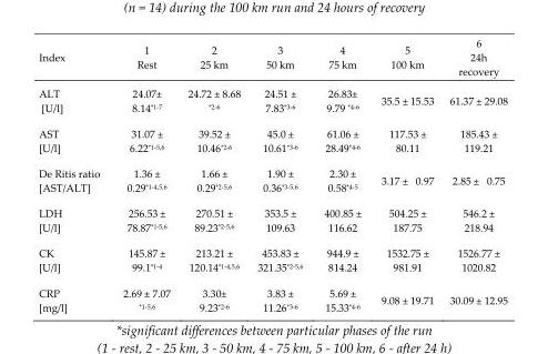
<table><thead><tr><td>Index</td><td>1 Rest</td><td>2 25 km</td><td>3 50 km</td><td>4 75 km</td><td>5 100 km</td><td>6 24h recovery</td></tr></thead><tbody><tr><td>ALT [U/l]</td><td>24.07± 8.14<sup>*1-7</sup></td><td>24.72 ± 8.68 <sup>*2-6</sup></td><td>24.51 ± 7.83<sup>*3-6</sup></td><td>26.83± 9.79 <sup>*4-6</sup></td><td>35.5 ± 15.53</td><td>61.37 ± 29.08</td></tr><tr><td>AST [U/l]</td><td>31.07 ± 6.22<sup>*1-5,6</sup></td><td>39.52 ± 10.46<sup>*2-6</sup></td><td>45.0 ± 10.61<sup>*3-6</sup></td><td>61.06 ± 28.49<sup>*4-6</sup></td><td>117.53 ± 80.11</td><td>185.43 ± 119.21</td></tr><tr><td>De Ritis ratio [AST/ALT]</td><td>1.36 ± 0.29<sup>*1-4,5,6</sup></td><td>1.66 ± 0.29<sup>*2-5,6</sup></td><td>1.90 ± 0.36<sup>*3-5,6</sup></td><td>2.30 ± 0.58<sup>*4-5</sup></td><td>3.17 ± 0.97</td><td>2.85 ± 0.75</td></tr><tr><td>LDH [U/l]</td><td>256.53 ± 78.87<sup>*1-5,6</sup></td><td>270.51 ± 89.23<sup>*2-5,6</sup></td><td>353.5 ± 109.63</td><td>400.85 ± 116.62</td><td>504.25 ± 187.75</td><td>546.2 ± 218.94</td></tr><tr><td>CK [U/l]</td><td>145.87 ± 99.1<sup>*1-4</sup></td><td>213.21 ± 120.14<sup>*1-4,5,6</sup></td><td>453.83 ± 321.35<sup>*2-5,6</sup></td><td>944.9 ± 814.24</td><td>1532.75 ± 981.91</td><td>1526.77 ± 1020.82</td></tr><tr><td>CRP [mg/l]</td><td>2.69 ± 7.07 <sup>*1-5,6</sup></td><td>3.30± 9.23<sup>*2-6</sup></td><td>3.83 ± 11.26<sup>*3-6</sup></td><td>5.69 ± 15.33<sup>*4-6</sup></td><td>9.08 ± 19.71</td><td>30.09 ± 12.95</td></tr></tbody></table>